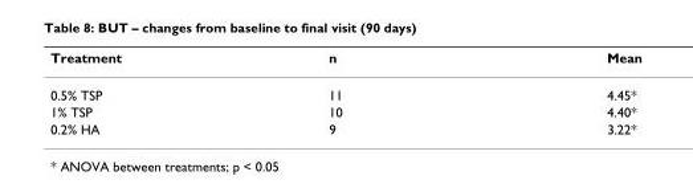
<table><thead><tr><td>Treatment</td><td>n</td><td>Mean</td></tr></thead><tbody><tr><td>0.5% TSP</td><td>11</td><td>4.45*</td></tr><tr><td>1% TSP</td><td>10</td><td>4.40*</td></tr><tr><td>0.2% HA</td><td>9</td><td>3.22*</td></tr></tbody></table>